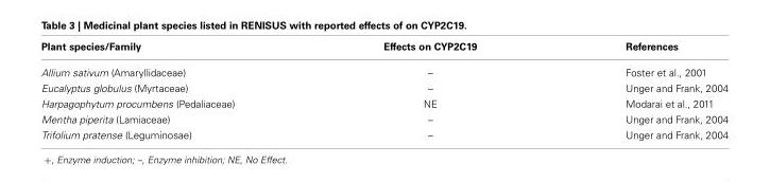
<table><thead><tr><td>Plant species/Family</td><td>Effects on CYP2C19</td><td>References</td></tr></thead><tbody><tr><td>Allium sativum (Amaryllidaceae)</td><td>–</td><td>Foster et al., 2001</td></tr><tr><td>Eucalyptus globulus (Myrtaceae)</td><td>–</td><td>Unger and Frank, 2004</td></tr><tr><td>Harpagophytum procumbens (Pedaliaceae)</td><td>NE</td><td>Modarai et al., 2011</td></tr><tr><td>Mentha piperita (Lamiaceae)</td><td>–</td><td>Unger and Frank, 2004</td></tr><tr><td>Trifolium pratense (Leguminosae)</td><td>–</td><td>Unger and Frank, 2004</td></tr></tbody></table>